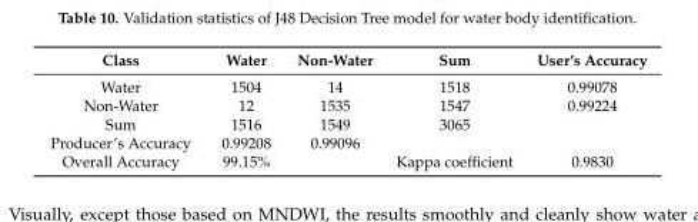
<table><thead><tr><td>Class</td><td>Water</td><td>Non-Water</td><td>Sum</td><td>User’s Accuracy</td></tr></thead><tbody><tr><td>Water</td><td>1504</td><td>14</td><td>1518</td><td>0.99078</td></tr><tr><td>Non-Water</td><td>12</td><td>1535</td><td>1547</td><td>0.99224</td></tr><tr><td>Sum</td><td>1516</td><td>1549</td><td>3065</td><td></td></tr><tr><td>Producer’s Accuracy</td><td>0.99208</td><td>0.99096</td><td></td><td></td></tr><tr><td>Overall Accuracy</td><td>99.15%</td><td></td><td>Kappa coefficient</td><td>0.9830</td></tr></tbody></table>